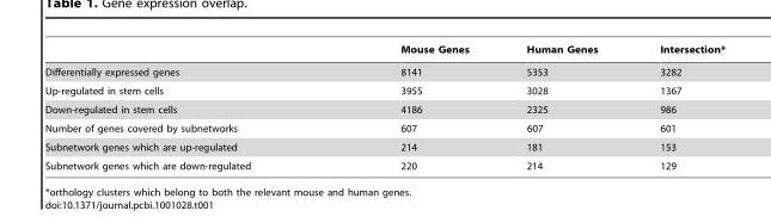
<table><thead><tr><td></td><td>Mouse Genes</td><td>Human Genes</td><td>Intersection*</td></tr></thead><tbody><tr><td>Differentially expressed genes</td><td>8141</td><td>5353</td><td>3282</td></tr><tr><td>Up-regulated in stem cells</td><td>3955</td><td>3028</td><td>1367</td></tr><tr><td>Down-regulated in stem cells</td><td>4186</td><td>2325</td><td>986</td></tr><tr><td>Number of genes covered by subnetworks</td><td>607</td><td>607</td><td>601</td></tr><tr><td>Subnetwork genes which are up-regulated</td><td>214</td><td>181</td><td>153</td></tr><tr><td>Subnetwork genes which are down-regulated</td><td>220</td><td>214</td><td>129</td></tr></tbody></table>